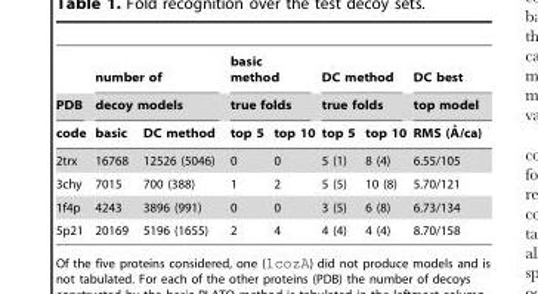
<table><thead><tr><td rowspan="3">PDB code</td><td rowspan="2" colspan="2">number of decoy models</td><td rowspan="2" colspan="2">basic method true folds</td><td rowspan="2" colspan="2">DC method true folds</td><td rowspan="3">DC best top model RMS (A˚ /ca)</td></tr><tr></tr><tr><td>basic</td><td>DC method</td><td>top 5</td><td>top 10</td><td>top 5</td><td>top 10</td></tr></thead><tbody><tr><td>2trx</td><td>16768</td><td>12526 (5046)</td><td>0</td><td>0</td><td>5 (1)</td><td>8 (4)</td><td>6.55/105</td></tr><tr><td>3chy</td><td>7015</td><td>700 (388)</td><td>1</td><td>2</td><td>5 (5)</td><td>10 (8)</td><td>5.70/121</td></tr><tr><td>1f4p</td><td>4243</td><td>3896 (991)</td><td>0</td><td>0</td><td>3 (5)</td><td>6 (8)</td><td>6.73/134</td></tr><tr><td>5p21</td><td>20169</td><td>5196 (1655)</td><td>2</td><td>4</td><td>4 (4)</td><td>4 (4)</td><td>8.70/158</td></tr></tbody></table>